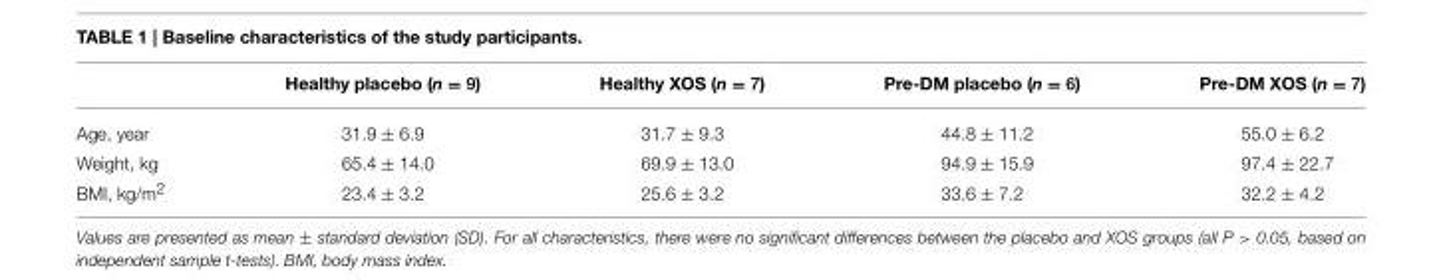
<table><thead><tr><td></td><td>Healthy placebo (n = 9)</td><td>Healthy XOS (n = 7)</td><td>Pre-DM placebo (n = 6)</td><td>Pre-DM XOS (n = 7)</td></tr></thead><tbody><tr><td>Age, year</td><td>31.9 ± 6.9</td><td>31.7 ± 9.3</td><td>44.8 ± 11.2</td><td>55.0 ± 6.2</td></tr><tr><td>Weight, kg</td><td>65.4 ± 14.0</td><td>69.9 ± 13.0</td><td>94.9 ± 15.9</td><td>97.4 ± 22.7</td></tr><tr><td>BMI, kg/m<sup>2</sup></td><td>23.4 ± 3.2</td><td>25.6 ± 3.2</td><td>33.6 ± 7.2</td><td>32.2 ± 4.2</td></tr></tbody></table>